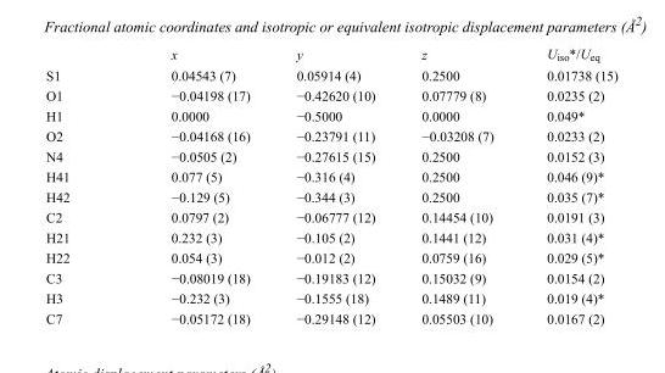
<table><thead><tr><td></td><td>x</td><td>y</td><td>z</td><td>U<sub>iso</sub>*/U<sub>eq</sub></td></tr></thead><tbody><tr><td>S1</td><td>0.04543 (7)</td><td>0.05914 (4)</td><td>0.2500</td><td>0.01738 (15)</td></tr><tr><td>O1</td><td>−0.04198 (17)</td><td>−0.42620 (10)</td><td>0.07779 (8)</td><td>0.0235 (2)</td></tr><tr><td>H1</td><td>0.0000</td><td>−0.5000</td><td>0.0000</td><td>0.049*</td></tr><tr><td>O2</td><td>−0.04168 (16)</td><td>−0.23791 (11)</td><td>−0.03208 (7)</td><td>0.0233 (2)</td></tr><tr><td>N4</td><td>−0.0505 (2)</td><td>−0.27615 (15)</td><td>0.2500</td><td>0.0152 (3)</td></tr><tr><td>H41</td><td>0.077 (5)</td><td>−0.316 (4)</td><td>0.2500</td><td>0.046 (9)*</td></tr><tr><td>H42</td><td>−0.129 (5)</td><td>−0.344 (3)</td><td>0.2500</td><td>0.035 (7)*</td></tr><tr><td>C2</td><td>0.0797 (2)</td><td>−0.06777 (12)</td><td>0.14454 (10)</td><td>0.0191 (3)</td></tr><tr><td>H21</td><td>0.232 (3)</td><td>−0.105 (2)</td><td>0.1441 (12)</td><td>0.031 (4)*</td></tr><tr><td>H22</td><td>0.054 (3)</td><td>−0.012 (2)</td><td>0.0759 (16)</td><td>0.029 (5)*</td></tr><tr><td>C3</td><td>−0.08019 (18)</td><td>−0.19183 (12)</td><td>0.15032 (9)</td><td>0.0154 (2)</td></tr><tr><td>H3</td><td>−0.232 (3)</td><td>−0.1555 (18)</td><td>0.1489 (11)</td><td>0.019 (4)*</td></tr><tr><td>C7</td><td>−0.05172 (18)</td><td>−0.29148 (12)</td><td>0.05503 (10)</td><td>0.0167 (2)</td></tr></tbody></table>